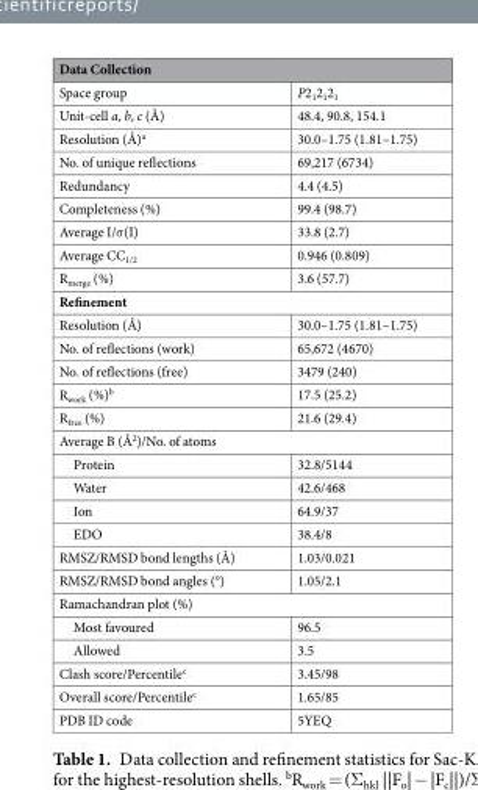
<table><thead><tr><td colspan="2">Data Collection</td></tr><tr><td>Space group</td><td>P2<sub>1</sub>2<sub>1</sub>2<sub>1</sub></td></tr></thead><tbody><tr><td>Unit-cell a, b, c (Å)</td><td>48.4, 90.8, 154.1</td></tr><tr><td>Resolution (Å)<sup>a</sup></td><td>30.0–1.75 (1.81–1.75)</td></tr><tr><td>No. of unique reflections</td><td>69,217 (6734)</td></tr><tr><td>Redundancy</td><td>4.4 (4.5)</td></tr><tr><td>Completeness (%)</td><td>99.4 (98.7)</td></tr><tr><td>Average I/σ(I)</td><td>33.8 (2.7)</td></tr><tr><td>Average CC<sub>1/2</sub></td><td>0.946 (0.809)</td></tr><tr><td>R<sub>merge</sub> (%)</td><td>3.6 (57.7)</td></tr><tr><td colspan="2">Refinement</td></tr><tr><td>Resolution (Å)</td><td>30.0–1.75 (1.81–1.75)</td></tr><tr><td>No. of reflections (work)</td><td>65,672 (4670)</td></tr><tr><td>No. of reflections (free)</td><td>3479 (240)</td></tr><tr><td>R<sub>work</sub> (%)<sup>b</sup></td><td>17.5 (25.2)</td></tr><tr><td>R<sub>free</sub> (%)</td><td>21.6 (29.4)</td></tr><tr><td colspan="2">Average B (Å<sup>2</sup>)/No. of atoms</td></tr><tr><td>Protein</td><td>32.8/5144</td></tr><tr><td>Water</td><td>42.6/468</td></tr><tr><td>Ion</td><td>64.9/37</td></tr><tr><td>EDO</td><td>38.4/8</td></tr><tr><td>RMSZ/RMSD bond lengths (Å)</td><td>1.03/0.021</td></tr><tr><td>RMSZ/RMSD bond angles (°)</td><td>1.05/2.1</td></tr><tr><td colspan="2">Ramachandran plot (%)</td></tr><tr><td>Most favoured</td><td>96.5</td></tr><tr><td>Allowed</td><td>3.5</td></tr><tr><td>Clash score/Percentile<sup>c</sup></td><td>3.45/98</td></tr><tr><td>Overall score/Percentile<sup>c</sup></td><td>1.65/85</td></tr><tr><td>PDB ID code</td><td>5YEQ</td></tr></tbody></table>